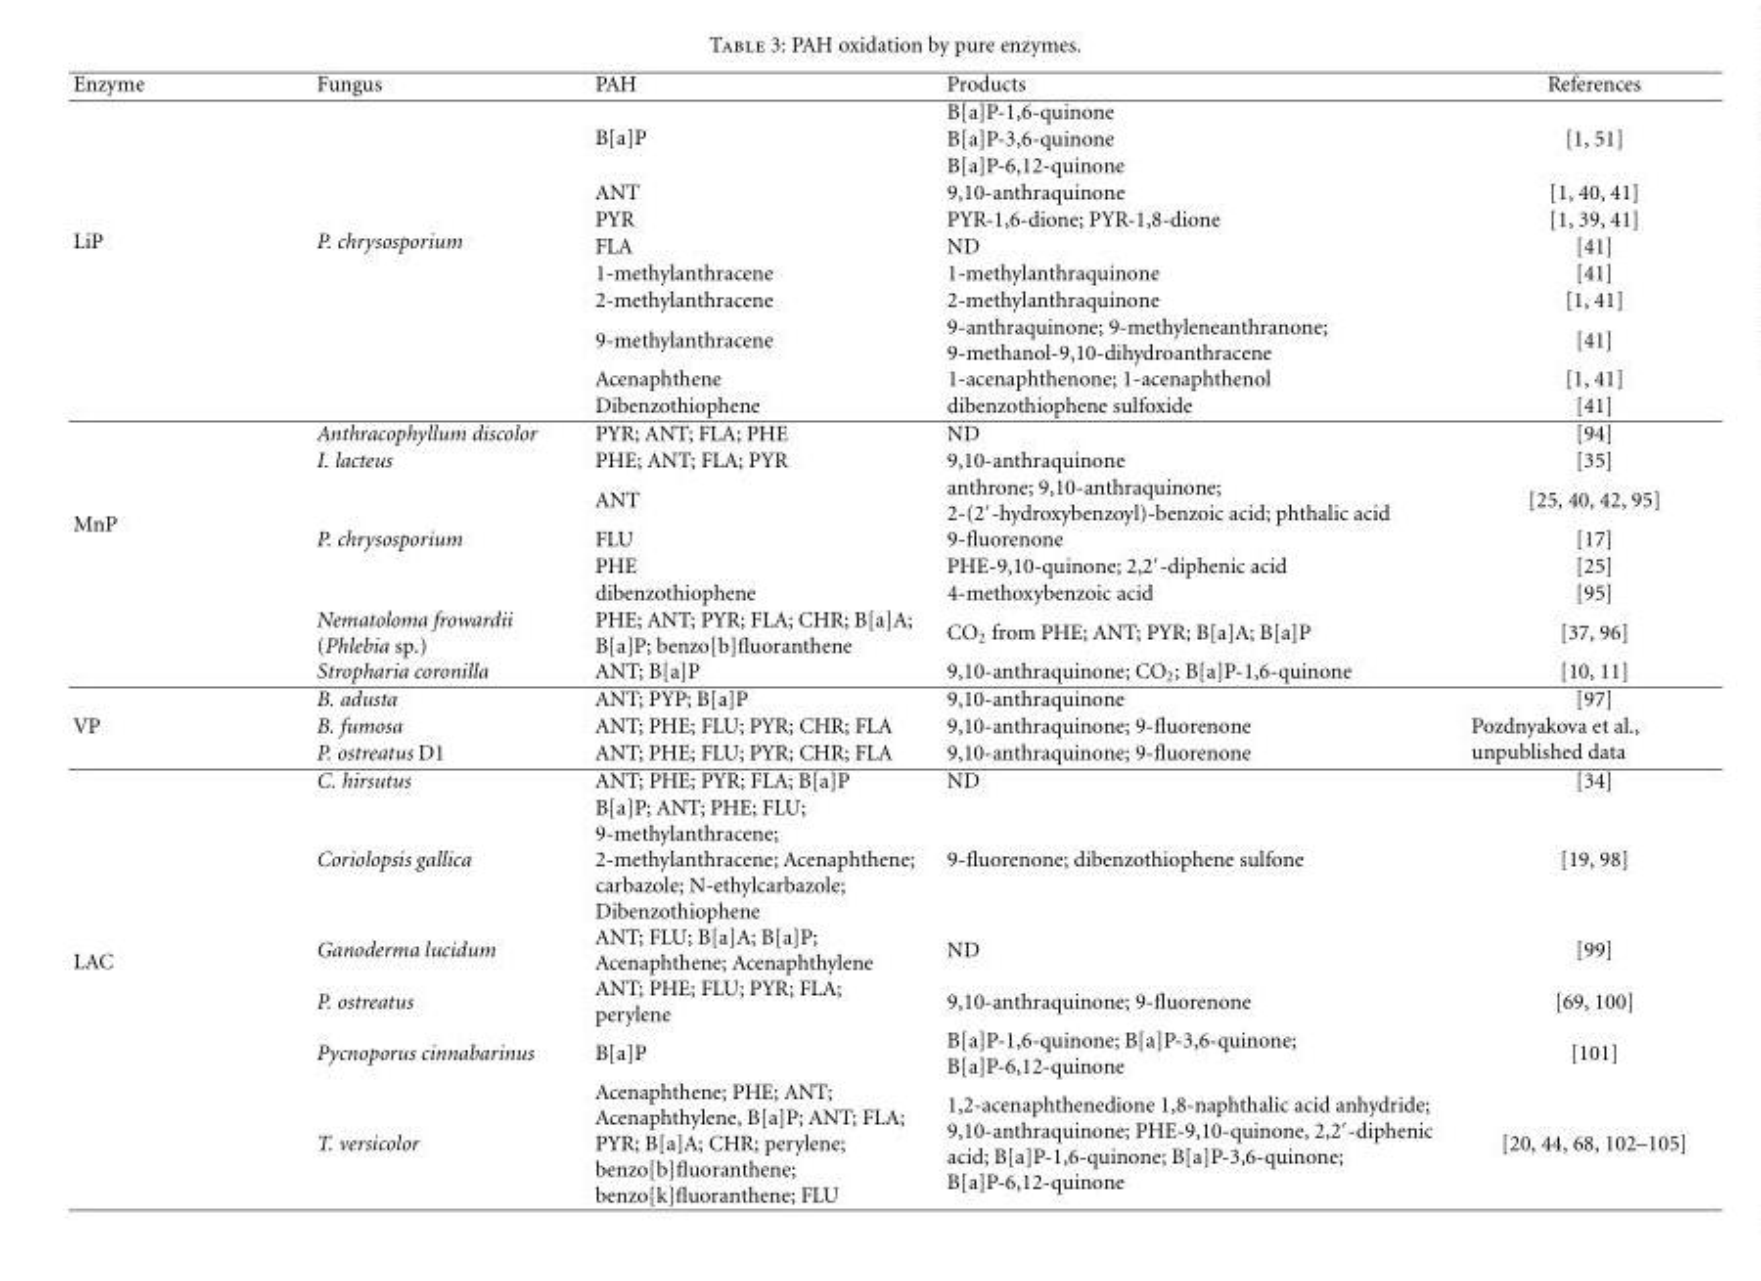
<table><thead><tr><td>Enzyme</td><td>Fungus</td><td>PAH</td><td>Products</td><td>References</td></tr></thead><tbody><tr><td rowspan="11">LiP</td><td rowspan="11">P. chrysosporium</td><td rowspan="3">B[a]P</td><td>B[a]P-1,6-quinone</td><td rowspan="3">[1, 51]</td></tr><tr><td>B[a]P-3,6-quinone</td></tr><tr><td>B[a]P-6,12-quinone</td></tr><tr><td>ANT</td><td>9,10-anthraquinone</td><td>[1, 40, 41]</td></tr><tr><td>PYR</td><td>PYR-1,6-dione; PYR-1,8-dione</td><td>[1, 39, 41]</td></tr><tr><td>FLA</td><td>ND</td><td>[41]</td></tr><tr><td>1-methylanthracene</td><td>1-methylanthraquinone</td><td>[41]</td></tr><tr><td>2-methylanthracene</td><td>2-methylanthraquinone</td><td>[1, 41]</td></tr><tr><td>9-methylanthracene</td><td>9-anthraquinone; 9-methyleneanthranone; 9-methanol-9,10-dihydroanthracene</td><td>[41]</td></tr><tr><td>Acenaphthene</td><td>1-acenaphthenone; 1-acenaphthenol</td><td>[1, 41]</td></tr><tr><td>Dibenzothiophene</td><td>dibenzothiophene sulfoxide</td><td>[41]</td></tr><tr><td rowspan="9">MnP</td><td>Anthracophyllum discolor</td><td>PYR; ANT; FLA; PHE</td><td>ND</td><td>[94]</td></tr><tr><td>I. lacteus</td><td>PHE; ANT; FLA; PYR</td><td>9,10-anthraquinone</td><td>[35]</td></tr><tr><td rowspan="4">P. chrysosporium</td><td>ANT</td><td>anthrone; 9,10-anthraquinone; 2-(2′-hydroxybenzoyl)-benzoic acid; phthalic acid</td><td>[25, 40, 42, 95]</td></tr><tr><td>FLU</td><td>9-fluorenone</td><td>[17]</td></tr><tr><td>PHE</td><td>PHE-9,10-quinone; 2,2′-diphenic acid</td><td>[25]</td></tr><tr><td>dibenzothiophene</td><td>4-methoxybenzoic acid</td><td>[95]</td></tr><tr><td>Nematoloma frowardii (Phlebia sp.)</td><td>PHE; ANT; PYR; FLA; CHR; B[a]A; B[a]P; benzo[b]fluoranthene</td><td>CO<sub>2</sub> from PHE; ANT; PYR; B[a]A; B[a]P</td><td>[37, 96]</td></tr><tr><td>Stropharia coronilla</td><td>ANT; B[a]P</td><td>9,10-anthraquinone; CO<sub>2</sub>; B[a]P-1,6-quinone</td><td>[10, 11]</td></tr><tr><td>B. adusta</td><td>ANT; PYP; B[a]P</td><td>9,10-anthraquinone</td><td>[97]</td></tr><tr><td rowspan="2">VP</td><td>B. fumosa</td><td>ANT; PHE; FLU; PYR; CHR; FLA</td><td>9,10-anthraquinone; 9-fluorenone</td><td rowspan="2">Pozdnyakova et al., unpublished data</td></tr><tr><td>P. ostreatus D1</td><td>ANT; PHE; FLU; PYR; CHR; FLA</td><td>9,10-anthraquinone; 9-fluorenone</td></tr><tr><td rowspan="6">LAC</td><td>C. hirsutus</td><td>ANT; PHE; PYR; FLA; B[a]P</td><td>ND</td><td>[34]</td></tr><tr><td>Coriolopsis gallica</td><td>B[a]P; ANT; PHE; FLU; 9-methylanthracene; 2-methylanthracene; Acenaphthene; carbazole; N-ethylcarbazole; Dibenzothiophene</td><td>9-fluorenone; dibenzothiophene sulfone</td><td>[19, 98]</td></tr><tr><td>Ganoderma lucidum</td><td>ANT; FLU; B[a]A; B[a]P; Acenaphthene; Acenaphthylene</td><td>ND</td><td>[99]</td></tr><tr><td>P. ostreatus</td><td>ANT; PHE; FLU; PYR; FLA; perylene</td><td>9,10-anthraquinone; 9-fluorenone</td><td>[69, 100]</td></tr><tr><td>Pycnoporus cinnabarinus</td><td>B[a]P</td><td>B[a]P-1,6-quinone; B[a]P-3,6-quinone; B[a]P-6,12-quinone</td><td>[101]</td></tr><tr><td>T. versicolor</td><td>Acenaphthene; PHE; ANT; Acenaphthylene, B[a]P; ANT; FLA; PYR; B[a]A; CHR; perylene; benzo[b]fluoranthene; benzo[k]fluoranthene; FLU</td><td>1,2-acenaphthenedione 1,8-naphthalic acid anhydride; 9,10-anthraquinone; PHE-9,10-quinone, 2,2′-diphenic acid; B[a]P-1,6-quinone; B[a]P-3,6-quinone; B[a]P-6,12-quinone</td><td>[20, 44, 68, 102–105]</td></tr></tbody></table>